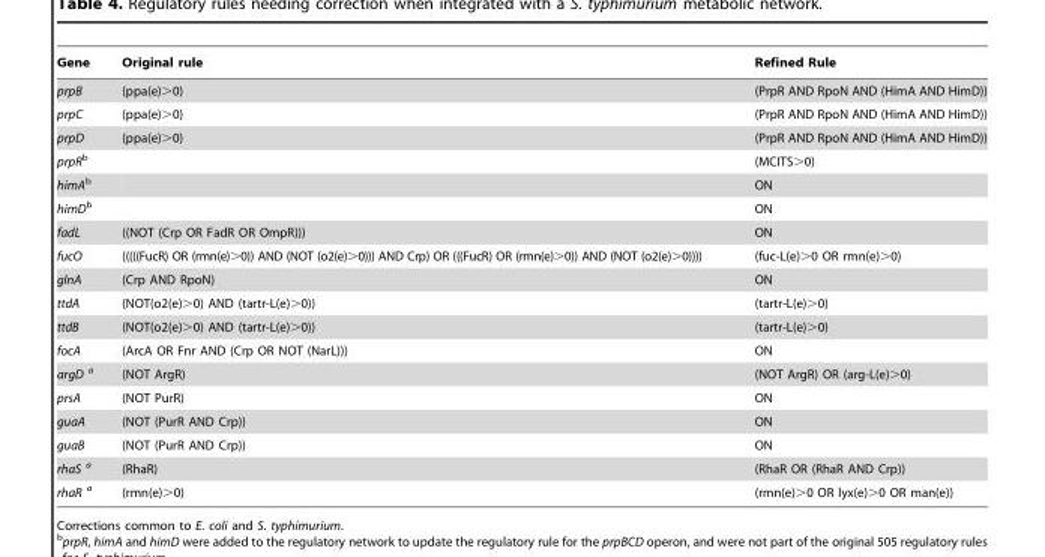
<table><thead><tr><td>Gene</td><td>Original rule</td><td>Refined Rule</td></tr></thead><tbody><tr><td>prpB</td><td>(ppa(e)&gt;0)</td><td>(PrpR AND RpoN AND (HimA AND HimD))</td></tr><tr><td>prpC</td><td>(ppa(e)&gt;0)</td><td>(PrpR AND RpoN AND (HimA AND HimD))</td></tr><tr><td>prpD</td><td>(ppa(e)&gt;0)</td><td>(PrpR AND RpoN AND (HimA AND HimD))</td></tr><tr><td>prpRb</td><td></td><td>(MCITS&gt;0)</td></tr><tr><td>himAb</td><td></td><td>ON</td></tr><tr><td>himDb</td><td></td><td>ON</td></tr><tr><td>fadL</td><td>((NOT (Crp OR FadR OR OmpR)))</td><td>ON</td></tr><tr><td>fucO</td><td>(((((FucR) OR (rmn(e)&gt;0)) AND (NOT (o2(e)&gt;0))) AND Crp) OR (((FucR) OR (rmn(e)&gt;0)) AND (NOT (o2(e)&gt;0))))</td><td>(fuc-L(e)&gt;0 OR rmn(e)&gt;0)</td></tr><tr><td>glnA</td><td>(Crp AND RpoN)</td><td>ON</td></tr><tr><td>ttdA</td><td>(NOT(o2(e)&gt;0) AND (tartr-L(e)&gt;0))</td><td>(tartr-L(e)&gt;0)</td></tr><tr><td>ttdB</td><td>(NOT(o2(e)&gt;0) AND (tartr-L(e)&gt;0))</td><td>(tartr-L(e)&gt;0)</td></tr><tr><td>focA</td><td>(ArcA OR Fnr AND (Crp OR NOT (NarL)))</td><td>ON</td></tr><tr><td>argD <sup>a</sup></td><td>(NOT ArgR)</td><td>(NOT ArgR) OR (arg-L(e)&gt;0)</td></tr><tr><td>prsA</td><td>(NOT PurR)</td><td>ON</td></tr><tr><td>guaA</td><td>(NOT (PurR AND Crp))</td><td>ON</td></tr><tr><td>guaB</td><td>(NOT (PurR AND Crp))</td><td>ON</td></tr><tr><td>rhaS <sup>a</sup></td><td>(RhaR)</td><td>(RhaR OR (RhaR AND Crp))</td></tr><tr><td>rhaR <sup>a</sup></td><td>(rmn(e)&gt;0)</td><td>(rmn(e)&gt;0 OR lyx(e)&gt;0 OR man(e))</td></tr></tbody></table>